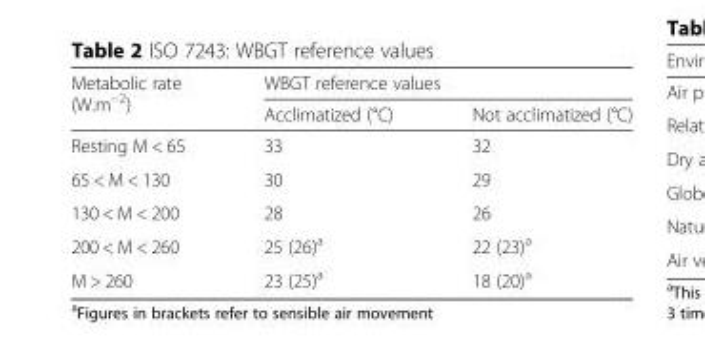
<table><thead><tr><td rowspan="2">Metabolic rate (W.m<sup>−2</sup>)</td><td colspan="2">WBGT reference values</td></tr><tr><td>Acclimatized (°C)</td><td>Not acclimatized (°C)</td></tr></thead><tbody><tr><td>Resting M &lt; 65</td><td>33</td><td>32</td></tr><tr><td>65 &lt; M &lt; 130</td><td>30</td><td>29</td></tr><tr><td>130 &lt; M &lt; 200</td><td>28</td><td>26</td></tr><tr><td>200 &lt; M &lt; 260</td><td>25 (26)<sup>a</sup></td><td>22 (23)<sup>a</sup></td></tr><tr><td>M &gt; 260</td><td>23 (25)<sup>a</sup></td><td>18 (20)<sup>a</sup></td></tr></tbody></table>